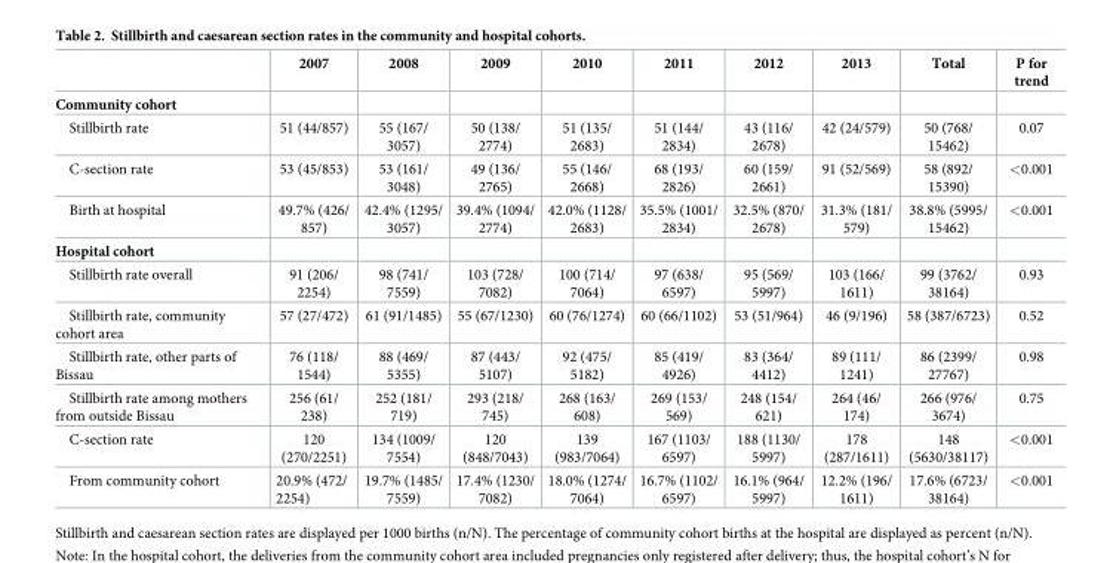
<table><thead><tr><td></td><td>2007</td><td>2008</td><td>2009</td><td>2010</td><td>2011</td><td>2012</td><td>2013</td><td>Total</td><td>P for trend</td></tr></thead><tbody><tr><td colspan="10">Community cohort</td></tr><tr><td>Stillbirth rate</td><td>51 (44/857)</td><td>55 (167/ 3057)</td><td>50 (138/ 2774)</td><td>51 (135/ 2683)</td><td>51 (144/ 2834)</td><td>43 (116/ 2678)</td><td>42 (24/579)</td><td>50 (768/ 15462)</td><td>0.07</td></tr><tr><td>C-section rate</td><td>53 (45/853)</td><td>53 (161/ 3048)</td><td>49 (136/ 2765)</td><td>55 (146/ 2668)</td><td>68 (193/ 2826)</td><td>60 (159/ 2661)</td><td>91 (52/569)</td><td>58 (892/ 15390)</td><td>&lt;0.001</td></tr><tr><td>Birth at hospital</td><td>49.7% (426/ 857)</td><td>42.4% (1295/ 3057)</td><td>39.4% (1094/ 2774)</td><td>42.0% (1128/ 2683)</td><td>35.5% (1001/ 2834)</td><td>32.5% (870/ 2678)</td><td>31.3% (181/ 579)</td><td>38.8% (5995/ 15462)</td><td>&lt;0.001</td></tr><tr><td colspan="10">Hospital cohort</td></tr><tr><td>Stillbirth rate overall</td><td>91 (206/ 2254)</td><td>98 (741/ 7559)</td><td>103 (728/ 7082)</td><td>100 (714/ 7064)</td><td>97 (638/ 6597)</td><td>95 (569/ 5997)</td><td>103 (166/ 1611)</td><td>99 (3762/ 38164)</td><td>0.93</td></tr><tr><td>Stillbirth rate, community cohort area</td><td>57 (27/472)</td><td>61 (91/1485)</td><td>55 (67/1230)</td><td>60 (76/1274)</td><td>60 (66/1102)</td><td>53 (51/964)</td><td>46 (9/196)</td><td>58 (387/6723)</td><td>0.52</td></tr><tr><td>Stillbirth rate, other parts of Bissau</td><td>76 (118/ 1544)</td><td>88 (469/ 5355)</td><td>87 (443/ 5107)</td><td>92 (475/ 5182)</td><td>85 (419/ 4926)</td><td>83 (364/ 4412)</td><td>89 (111/ 1241)</td><td>86 (2399/ 27767)</td><td>0.98</td></tr><tr><td>Stillbirth rate among mothers from outside Bissau</td><td>256 (61/ 238)</td><td>252 (181/ 719)</td><td>293 (218/ 745)</td><td>268 (163/ 608)</td><td>269 (153/ 569)</td><td>248 (154/ 621)</td><td>264 (46/ 174)</td><td>266 (976/ 3674)</td><td>0.75</td></tr><tr><td>C-section rate</td><td>120 (270/2251)</td><td>134 (1009/ 7554)</td><td>120 (848/7043)</td><td>139 (983/7064)</td><td>167 (1103/ 6597)</td><td>188 (1130/ 5997)</td><td>178 (287/1611)</td><td>148 (5630/38117)</td><td>&lt;0.001</td></tr><tr><td>From community cohort</td><td>20.9% (472/ 2254)</td><td>19.7% (1485/ 7559)</td><td>17.4% (1230/ 7082)</td><td>18.0% (1274/ 7064)</td><td>16.7% (1102/ 6597)</td><td>16.1% (964/ 5997)</td><td>12.2% (196/ 1611)</td><td>17.6% (6723/ 38164)</td><td>&lt;0.001</td></tr></tbody></table>